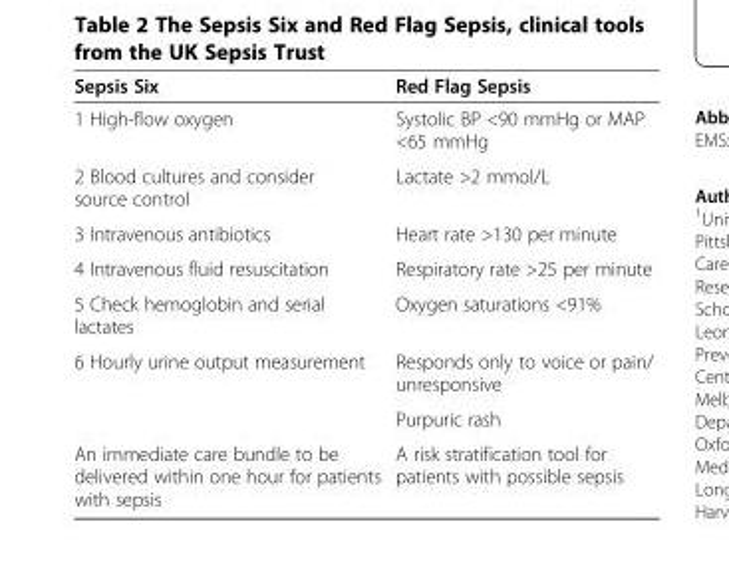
<table><thead><tr><td>Sepsis Six</td><td>Red Flag Sepsis</td></tr></thead><tbody><tr><td>1 High-flow oxygen</td><td>Systolic BP &lt;90 mmHg or MAP &lt;65 mmHg</td></tr><tr><td>2 Blood cultures and consider source control</td><td>Lactate &gt;2 mmol/L</td></tr><tr><td>3 Intravenous antibiotics</td><td>Heart rate &gt;130 per minute</td></tr><tr><td>4 Intravenous fluid resuscitation</td><td>Respiratory rate &gt;25 per minute</td></tr><tr><td>5 Check hemoglobin and serial lactates</td><td>Oxygen saturations &lt;91%</td></tr><tr><td rowspan="2">6 Hourly urine output measurement</td><td>Responds only to voice or pain/ unresponsive</td></tr><tr><td>Purpuric rash</td></tr><tr><td>An immediate care bundle to be delivered within one hour for patients with sepsis</td><td>A risk stratification tool for patients with possible sepsis</td></tr></tbody></table>